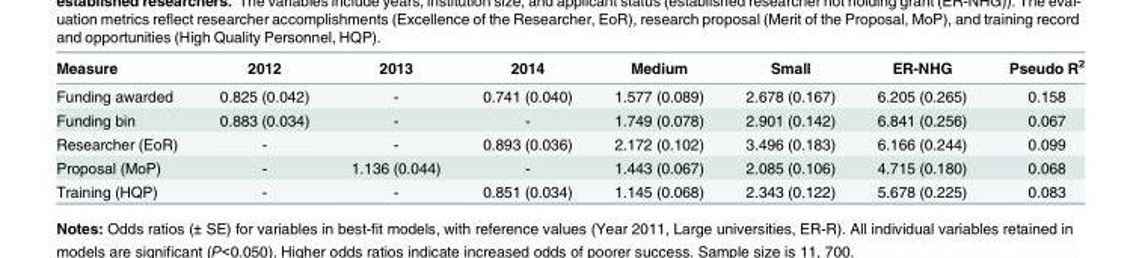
<table><thead><tr><td>Measure</td><td>2012</td><td>2013</td><td>2014</td><td>Medium</td><td>Small</td><td>ER-NHG</td><td>Pseudo R<sup>2</sup></td></tr></thead><tbody><tr><td>Funding awarded</td><td>0.825 (0.042)</td><td>-</td><td>0.741 (0.040)</td><td>1.577 (0.089)</td><td>2.678 (0.167)</td><td>6.205 (0.265)</td><td>0.158</td></tr><tr><td>Funding bin</td><td>0.883 (0.034)</td><td>-</td><td>-</td><td>1.749 (0.078)</td><td>2.901 (0.142)</td><td>6.841 (0.256)</td><td>0.067</td></tr><tr><td>Researcher (EoR)</td><td>-</td><td>-</td><td>0.893 (0.036)</td><td>2.172 (0.102)</td><td>3.496 (0.183)</td><td>6.166 (0.244)</td><td>0.099</td></tr><tr><td>Proposal (MoP)</td><td>-</td><td>1.136 (0.044)</td><td>-</td><td>1.443 (0.067)</td><td>2.085 (0.106)</td><td>4.715 (0.180)</td><td>0.068</td></tr><tr><td>Training (HQP)</td><td>-</td><td>-</td><td>0.851 (0.034)</td><td>1.145 (0.068)</td><td>2.343 (0.122)</td><td>5.678 (0.225)</td><td>0.083</td></tr></tbody></table>